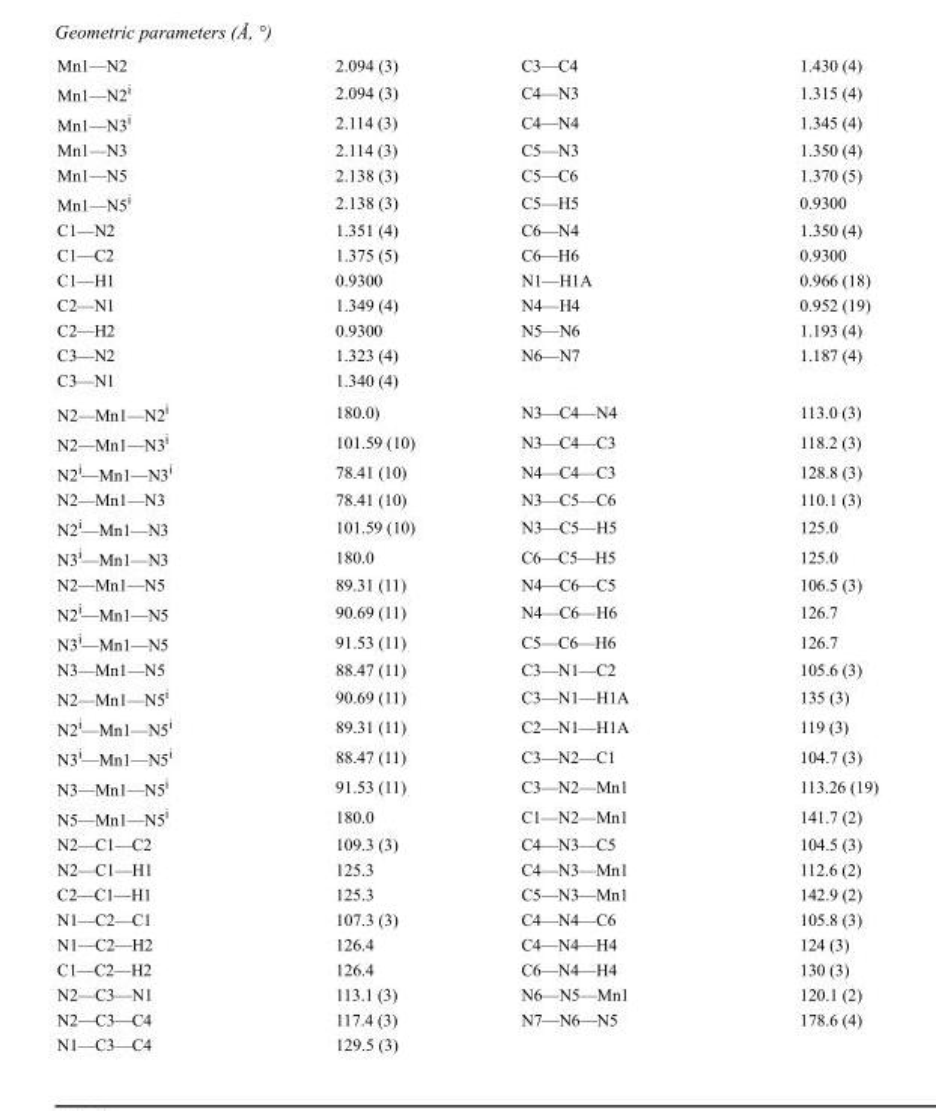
<table><tbody><tr><td>Mn1—N2</td><td>2.094 (3)</td><td>C3—C4</td><td>1.430 (4)</td></tr><tr><td>Mn1—N2i</td><td>2.094 (3)</td><td>C4—N3</td><td>1.315 (4)</td></tr><tr><td>Mn1—N3i</td><td>2.114 (3)</td><td>C4—N4</td><td>1.345 (4)</td></tr><tr><td>Mn1—N3</td><td>2.114 (3)</td><td>C5—N3</td><td>1.350 (4)</td></tr><tr><td>Mn1—N5</td><td>2.138 (3)</td><td>C5—C6</td><td>1.370 (5)</td></tr><tr><td>Mn1—N5i</td><td>2.138 (3)</td><td>C5—H5</td><td>0.9300</td></tr><tr><td>C1—N2</td><td>1.351 (4)</td><td>C6—N4</td><td>1.350 (4)</td></tr><tr><td>C1—C2</td><td>1.375 (5)</td><td>C6—H6</td><td>0.9300</td></tr><tr><td>C1—H1</td><td>0.9300</td><td>N1—H1A</td><td>0.966 (18)</td></tr><tr><td>C2—N1</td><td>1.349 (4)</td><td>N4—H4</td><td>0.952 (19)</td></tr><tr><td>C2—H2</td><td>0.9300</td><td>N5—N6</td><td>1.193 (4)</td></tr><tr><td>C3—N2</td><td>1.323 (4)</td><td>N6—N7</td><td>1.187 (4)</td></tr><tr><td>C3—N1</td><td>1.340 (4)</td><td></td><td></td></tr><tr><td>N2—Mn1—N2i</td><td>180.0)</td><td>N3—C4—N4</td><td>113.0 (3)</td></tr><tr><td>N2—Mn1—N3i</td><td>101.59 (10)</td><td>N3—C4—C3</td><td>118.2 (3)</td></tr><tr><td>N2i—Mn1—N3i</td><td>78.41 (10)</td><td>N4—C4—C3</td><td>128.8 (3)</td></tr><tr><td>N2—Mn1—N3</td><td>78.41 (10)</td><td>N3—C5—C6</td><td>110.1 (3)</td></tr><tr><td>N2i—Mn1—N3</td><td>101.59 (10)</td><td>N3—C5—H5</td><td>125.0</td></tr><tr><td>N3i—Mn1—N3</td><td>180.0</td><td>C6—C5—H5</td><td>125.0</td></tr><tr><td>N2—Mn1—N5</td><td>89.31 (11)</td><td>N4—C6—C5</td><td>106.5 (3)</td></tr><tr><td>N2i—Mn1—N5</td><td>90.69 (11)</td><td>N4—C6—H6</td><td>126.7</td></tr><tr><td>N3i—Mn1—N5</td><td>91.53 (11)</td><td>C5—C6—H6</td><td>126.7</td></tr><tr><td>N3—Mn1—N5</td><td>88.47 (11)</td><td>C3—N1—C2</td><td>105.6 (3)</td></tr><tr><td>N2—Mn1—N5i</td><td>90.69 (11)</td><td>C3—N1—H1A</td><td>135 (3)</td></tr><tr><td>N2i—Mn1—N5i</td><td>89.31 (11)</td><td>C2—N1—H1A</td><td>119 (3)</td></tr><tr><td>N3i—Mn1—N5i</td><td>88.47 (11)</td><td>C3—N2—C1</td><td>104.7 (3)</td></tr><tr><td>N3—Mn1—N5i</td><td>91.53 (11)</td><td>C3—N2—Mn1</td><td>113.26 (19)</td></tr><tr><td>N5—Mn1—N5i</td><td>180.0</td><td>C1—N2—Mn1</td><td>141.7 (2)</td></tr><tr><td>N2—C1—C2</td><td>109.3 (3)</td><td>C4—N3—C5</td><td>104.5 (3)</td></tr><tr><td>N2—C1—H1</td><td>125.3</td><td>C4—N3—Mn1</td><td>112.6 (2)</td></tr><tr><td>C2—C1—H1</td><td>125.3</td><td>C5—N3—Mn1</td><td>142.9 (2)</td></tr><tr><td>N1—C2—C1</td><td>107.3 (3)</td><td>C4—N4—C6</td><td>105.8 (3)</td></tr><tr><td>N1—C2—H2</td><td>126.4</td><td>C4—N4—H4</td><td>124 (3)</td></tr><tr><td>C1—C2—H2</td><td>126.4</td><td>C6—N4—H4</td><td>130 (3)</td></tr><tr><td>N2—C3—N1</td><td>113.1 (3)</td><td>N6—N5—Mn1</td><td>120.1 (2)</td></tr><tr><td>N2—C3—C4</td><td>117.4 (3)</td><td>N7—N6—N5</td><td>178.6 (4)</td></tr><tr><td>N1—C3—C4</td><td>129.5 (3)</td><td></td><td></td></tr></tbody></table>